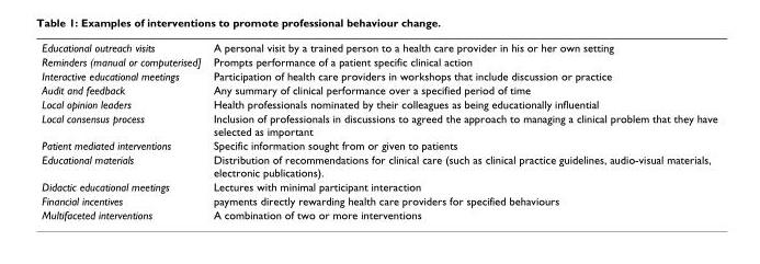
<table><tbody><tr><td>Educational outreach visits</td><td>A personal visit by a trained person to a health care provider in his or her own setting</td></tr><tr><td>Reminders (manual or computerised]</td><td>Prompts performance of a patient specific clinical action</td></tr><tr><td>Interactive educational meetings</td><td>Participation of health care providers in workshops that include discussion or practice</td></tr><tr><td>Audit and feedback</td><td>Any summary of clinical performance over a specified period of time</td></tr><tr><td>Local opinion leaders</td><td>Health professionals nominated by their colleagues as being educationally influential</td></tr><tr><td>Local consensus process</td><td>Inclusion of professionals in discussions to agreed the approach to managing a clinical problem that they have selected as important</td></tr><tr><td>Patient mediated interventions</td><td>Specific information sought from or given to patients</td></tr><tr><td>Educational materials</td><td>Distribution of recommendations for clinical care (such as clinical practice guidelines, audio-visual materials, electronic publications).</td></tr><tr><td>Didactic educational meetings</td><td>Lectures with minimal participant interaction</td></tr><tr><td>Financial incentives</td><td>payments directly rewarding health care providers for specified behaviours</td></tr><tr><td>Multifaceted interventions</td><td>A combination of two or more interventions</td></tr></tbody></table>